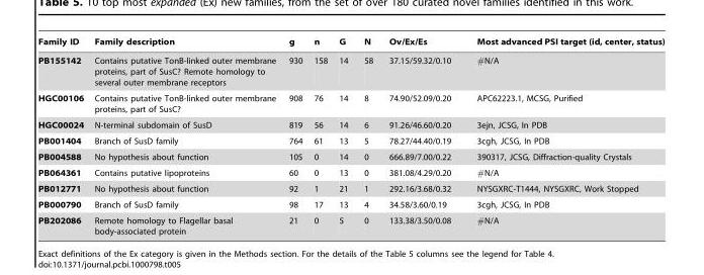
<table><thead><tr><td>Family ID</td><td>Family description</td><td>g</td><td>n</td><td>G</td><td>N</td><td>Ov/Ex/Es</td><td>Most advanced PSI target (id, center, status)</td></tr></thead><tbody><tr><td>PB155142</td><td>Contains putative TonB-linked outer membrane proteins, part of SusC? Remote homology to several outer membrane receptors</td><td>930</td><td>158</td><td>14</td><td>58</td><td>37.15/59.32/0.10</td><td>#N/A</td></tr><tr><td>HGC00106</td><td>Contains putative TonB-linked outer membrane proteins, part of SusC?</td><td>908</td><td>76</td><td>14</td><td>8</td><td>74.90/52.09/0.20</td><td>APC62223.1, MCSG, Purified</td></tr><tr><td>HGC00024</td><td>N-terminal subdomain of SusD</td><td>819</td><td>56</td><td>14</td><td>6</td><td>91.26/46.60/0.20</td><td>3ejn, JCSG, In PDB</td></tr><tr><td>PB001404</td><td>Branch of SusD family</td><td>764</td><td>61</td><td>13</td><td>5</td><td>78.27/44.40/0.19</td><td>3cgh, JCSG, In PDB</td></tr><tr><td>PB004588</td><td>No hypothesis about function</td><td>105</td><td>0</td><td>14</td><td>0</td><td>666.89/7.00/0.22</td><td>390317, JCSG, Diffraction-quality Crystals</td></tr><tr><td>PB064361</td><td>Contains putative lipoproteins</td><td>60</td><td>0</td><td>13</td><td>0</td><td>381.08/4.29/0.20</td><td>#N/A</td></tr><tr><td>PB012771</td><td>No hypothesis about function</td><td>92</td><td>1</td><td>21</td><td>1</td><td>292.16/3.68/0.32</td><td>NYSGXRC-T1444, NYSGXRC, Work Stopped</td></tr><tr><td>PB000790</td><td>Branch of SusD family</td><td>98</td><td>17</td><td>13</td><td>4</td><td>34.58/3.60/0.19</td><td>3cgh, JCSG, In PDB</td></tr><tr><td>PB202086</td><td>Remote homology to Flagellar basal body-associated protein</td><td>21</td><td>0</td><td>5</td><td>0</td><td>133.38/3.50/0.08</td><td>#N/A</td></tr></tbody></table>